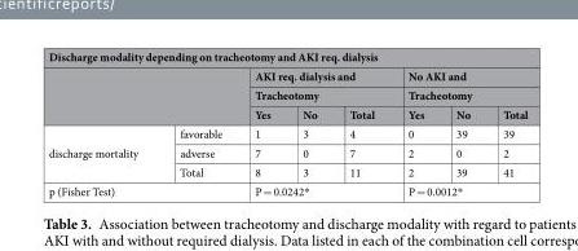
<table><thead><tr><td colspan="8">Discharge modality depending on tracheotomy and AKI req. dialysis</td></tr><tr><td rowspan="3"></td><td rowspan="3"></td><td rowspan="2" colspan="3">AKI req. dialysis and Tracheotomy</td><td rowspan="2" colspan="3">No AKI and Tracheotomy</td></tr><tr></tr><tr><td>Yes</td><td>No</td><td>Total</td><td>Yes</td><td>No</td><td>Total</td></tr></thead><tbody><tr><td rowspan="3">discharge mortality</td><td>favorable</td><td>1</td><td>3</td><td>4</td><td>0</td><td>39</td><td>39</td></tr><tr><td>adverse</td><td>7</td><td>0</td><td>7</td><td>2</td><td>0</td><td>2</td></tr><tr><td>Total</td><td>8</td><td>3</td><td>11</td><td>2</td><td>39</td><td>41</td></tr><tr><td colspan="2">p (Fisher Test)</td><td colspan="3">P = 0.0242*</td><td colspan="3">P = 0.0012*</td></tr></tbody></table>